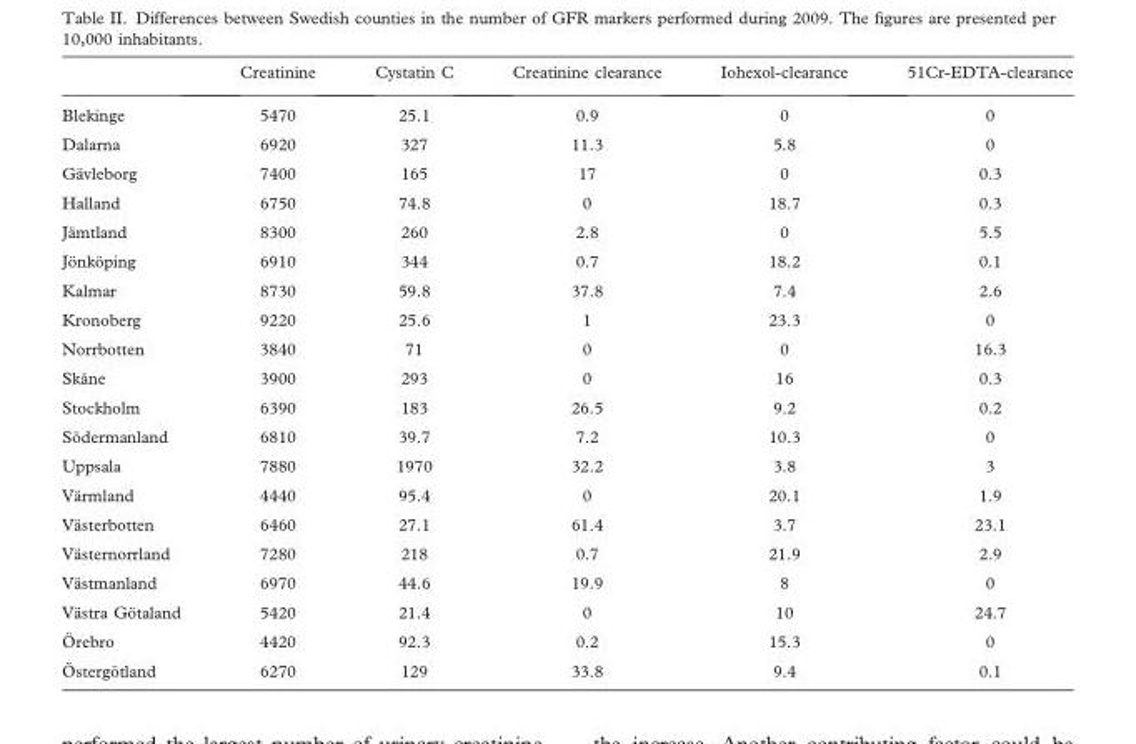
<table><thead><tr><td></td><td>Creatinine</td><td>Cystatin C</td><td>Creatinine clearance</td><td>Iohexol-clearance</td><td>51Cr-EDTA-clearance</td></tr></thead><tbody><tr><td>Blekinge</td><td>5470</td><td>25.1</td><td>0.9</td><td>0</td><td>0</td></tr><tr><td>Dalarna</td><td>6920</td><td>327</td><td>11.3</td><td>5.8</td><td>0</td></tr><tr><td>Gävleborg</td><td>7400</td><td>165</td><td>17</td><td>0</td><td>0.3</td></tr><tr><td>Halland</td><td>6750</td><td>74.8</td><td>0</td><td>18.7</td><td>0.3</td></tr><tr><td>Jämtland</td><td>8300</td><td>260</td><td>2.8</td><td>0</td><td>5.5</td></tr><tr><td>Jönköping</td><td>6910</td><td>344</td><td>0.7</td><td>18.2</td><td>0.1</td></tr><tr><td>Kalmar</td><td>8730</td><td>59.8</td><td>37.8</td><td>7.4</td><td>2.6</td></tr><tr><td>Kronoberg</td><td>9220</td><td>25.6</td><td>1</td><td>23.3</td><td>0</td></tr><tr><td>Norrbotten</td><td>3840</td><td>71</td><td>0</td><td>0</td><td>16.3</td></tr><tr><td>Skåne</td><td>3900</td><td>293</td><td>0</td><td>16</td><td>0.3</td></tr><tr><td>Stockholm</td><td>6390</td><td>183</td><td>26.5</td><td>9.2</td><td>0.2</td></tr><tr><td>Södermanland</td><td>6810</td><td>39.7</td><td>7.2</td><td>10.3</td><td>0</td></tr><tr><td>Uppsala</td><td>7880</td><td>1970</td><td>32.2</td><td>3.8</td><td>3</td></tr><tr><td>Värmland</td><td>4440</td><td>95.4</td><td>0</td><td>20.1</td><td>1.9</td></tr><tr><td>Västerbotten</td><td>6460</td><td>27.1</td><td>61.4</td><td>3.7</td><td>23.1</td></tr><tr><td>Västernorrland</td><td>7280</td><td>218</td><td>0.7</td><td>21.9</td><td>2.9</td></tr><tr><td>Västmanland</td><td>6970</td><td>44.6</td><td>19.9</td><td>8</td><td>0</td></tr><tr><td>Västra Götaland</td><td>5420</td><td>21.4</td><td>0</td><td>10</td><td>24.7</td></tr><tr><td>Örebro</td><td>4420</td><td>92.3</td><td>0.2</td><td>15.3</td><td>0</td></tr><tr><td>Östergötland</td><td>6270</td><td>129</td><td>33.8</td><td>9.4</td><td>0.1</td></tr></tbody></table>